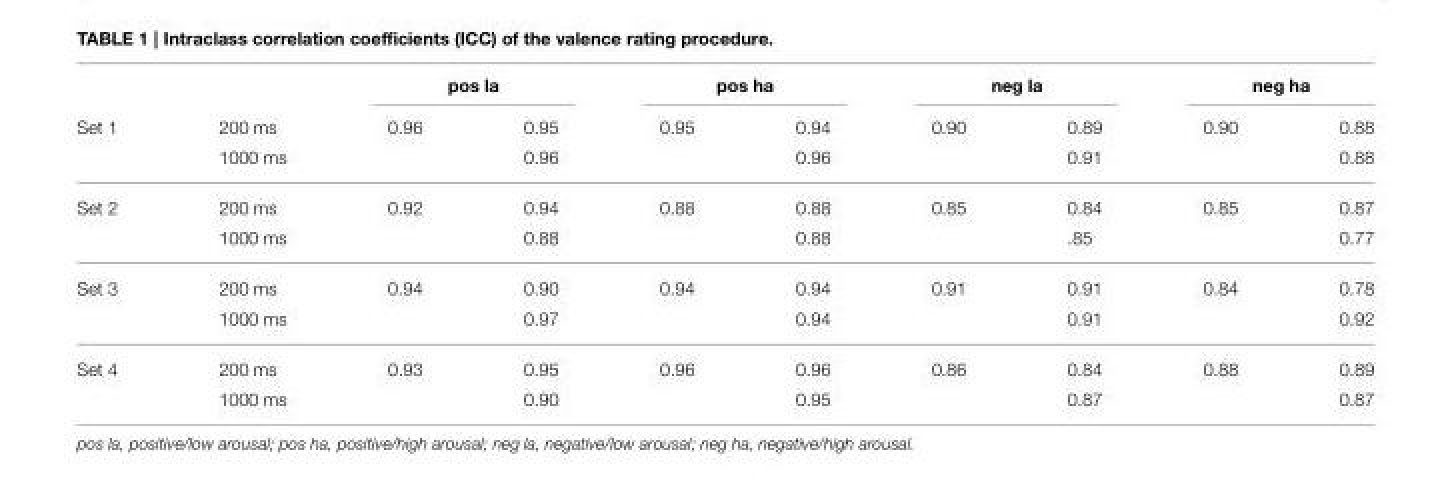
<table><thead><tr><td rowspan="2">Set 1</td><td rowspan="2">200 ms</td><td colspan="2">pos la</td><td colspan="2">pos ha</td><td colspan="2">neg la</td><td colspan="2">neg ha</td></tr><tr><td>0.96</td><td>0.95</td><td>0.95</td><td>0.94</td><td>0.90</td><td>0.89</td><td>0.90</td><td>0.88</td></tr></thead><tbody><tr><td></td><td>1000 ms</td><td></td><td>0.96</td><td></td><td>0.96</td><td></td><td>0.91</td><td></td><td>0.88</td></tr><tr><td rowspan="2">Set 2</td><td>200 ms</td><td>0.92</td><td>0.94</td><td>0.88</td><td>0.88</td><td>0.85</td><td>0.84</td><td>0.85</td><td>0.87</td></tr><tr><td>1000 ms</td><td></td><td>0.88</td><td></td><td>0.88</td><td></td><td>.85</td><td></td><td>0.77</td></tr><tr><td rowspan="2">Set 3</td><td>200 ms</td><td>0.94</td><td>0.90</td><td>0.94</td><td>0.94</td><td>0.91</td><td>0.91</td><td>0.84</td><td>0.78</td></tr><tr><td>1000 ms</td><td></td><td>0.97</td><td></td><td>0.94</td><td></td><td>0.91</td><td></td><td>0.92</td></tr><tr><td rowspan="2">Set 4</td><td>200 ms</td><td>0.93</td><td>0.95</td><td>0.96</td><td>0.96</td><td>0.86</td><td>0.84</td><td>0.88</td><td>0.89</td></tr><tr><td>1000 ms</td><td></td><td>0.90</td><td></td><td>0.95</td><td></td><td>0.87</td><td></td><td>0.87</td></tr></tbody></table>